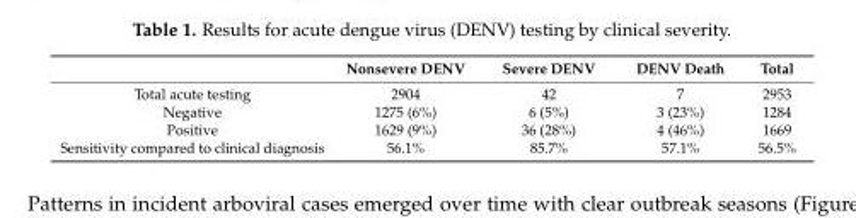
<table><thead><tr><td></td><td>Nonsevere DENV</td><td>Severe DENV</td><td>DENV Death</td><td>Total</td></tr></thead><tbody><tr><td>Total acute testing</td><td>2904</td><td>42</td><td>7</td><td>2953</td></tr><tr><td>Negative</td><td>1275 (6%)</td><td>6 (5%)</td><td>3 (23%)</td><td>1284</td></tr><tr><td>Positive</td><td>1629 (9%)</td><td>36 (28%)</td><td>4 (46%)</td><td>1669</td></tr><tr><td>Sensitivity compared to clinical diagnosis</td><td>56.1%</td><td>85.7%</td><td>57.1%</td><td>56.5%</td></tr></tbody></table>